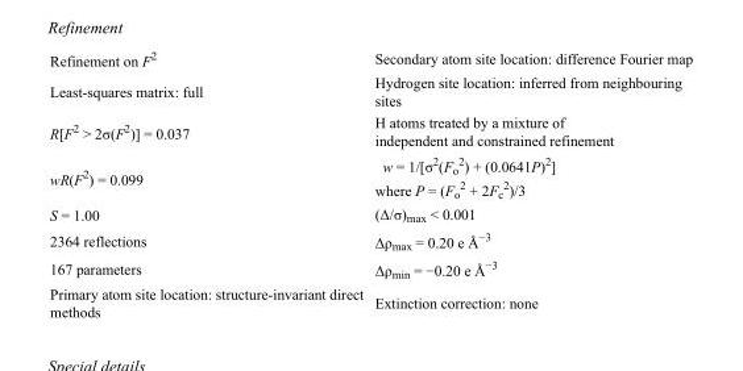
<table><tbody><tr><td>Refinement on F<sup>2</sup></td><td>Secondary atom site location: difference Fourier map</td></tr><tr><td>Least-squares matrix: full</td><td>Hydrogen site location: inferred from neighbouring sites</td></tr><tr><td>R[F<sup>2</sup> &gt; 2σ(F<sup>2</sup>)] = 0.037</td><td>H atoms treated by a mixture of independent and constrained refinement</td></tr><tr><td>wR(F<sup>2</sup>) = 0.099</td><td>w = 1/[σ<sup>2</sup>(F<sub>o</sub> <sup>2</sup>) + (0.0641P)<sup>2</sup>] where P = (F<sub>o</sub> <sup>2</sup> + 2F<sub>c</sub> <sup>2</sup>)/3</td></tr><tr><td>S = 1.00</td><td>(Δ/σ)<sub>max</sub> &lt; 0.001</td></tr><tr><td>2364 reflections</td><td>Δρ<sub>max</sub> = 0.20 e Å<sup>−3</sup></td></tr><tr><td>167 parameters</td><td>Δρ<sub>min</sub> = −0.20 e Å<sup>−3</sup></td></tr><tr><td>Primary atom site location: structure-invariant direct methods</td><td>Extinction correction: none</td></tr></tbody></table>